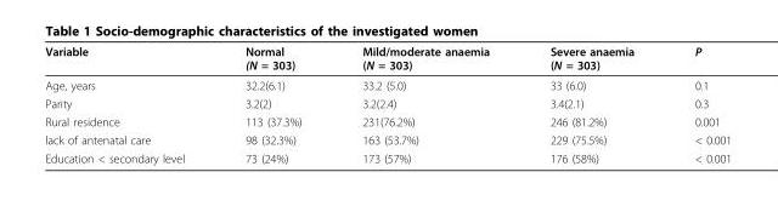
<table><thead><tr><td>Variable</td><td>Normal (N = 303)</td><td>Mild/moderate anaemia (N = 303)</td><td>Severe anaemia (N = 303)</td><td>P</td></tr></thead><tbody><tr><td>Age, years</td><td>32.2(6.1)</td><td>33.2 (5.0)</td><td>33 (6.0)</td><td>0.1</td></tr><tr><td>Parity</td><td>3.2(2)</td><td>3.2(2.4)</td><td>3.4(2.1)</td><td>0.3</td></tr><tr><td>Rural residence</td><td>113 (37.3%)</td><td>231(76.2%)</td><td>246 (81.2%)</td><td>0.001</td></tr><tr><td>lack of antenatal care</td><td>98 (32.3%)</td><td>163 (53.7%)</td><td>229 (75.5%)</td><td>&lt; 0.001</td></tr><tr><td>Education &lt; secondary level</td><td>73 (24%)</td><td>173 (57%)</td><td>176 (58%)</td><td>&lt; 0.001</td></tr></tbody></table>